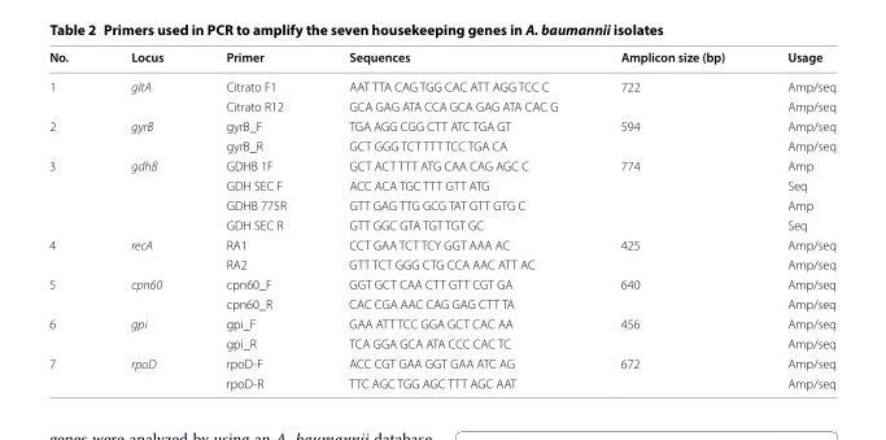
<table><thead><tr><td>No.</td><td>Locus</td><td>Primer</td><td>Sequences</td><td>Amplicon size (bp)</td><td>Usage</td></tr></thead><tbody><tr><td rowspan="2">1</td><td rowspan="2">gltA</td><td>Citrato F1</td><td>AAT TTA CAG TGG CAC ATT AGG TCC C</td><td rowspan="2">722</td><td>Amp/seq</td></tr><tr><td>Citrato R12</td><td>GCA GAG ATA CCA GCA GAG ATA CAC G</td><td>Amp/seq</td></tr><tr><td rowspan="2">2</td><td rowspan="2">gyrB</td><td>gyrB_F</td><td>TGA AGG CGG CTT ATC TGA GT</td><td rowspan="2">594</td><td>Amp/seq</td></tr><tr><td>gyrB_R</td><td>GCT GGG TCT TTT TCC TGA CA</td><td>Amp/seq</td></tr><tr><td rowspan="4">3</td><td rowspan="4">gdhB</td><td>GDHB 1F</td><td>GCT ACT TTT ATG CAA CAG AGC C</td><td rowspan="4">774</td><td>Amp</td></tr><tr><td>GDH SEC F</td><td>ACC ACA TGC TTT GTT ATG</td><td>Seq</td></tr><tr><td>GDHB 775R</td><td>GTT GAG TTG GCG TAT GTT GTG C</td><td>Amp</td></tr><tr><td>GDH SEC R</td><td>GTT GGC GTA TGT TGT GC</td><td>Seq</td></tr><tr><td rowspan="2">4</td><td rowspan="2">recA</td><td>RA1</td><td>CCT GAA TCT TCY GGT AAA AC</td><td rowspan="2">425</td><td>Amp/seq</td></tr><tr><td>RA2</td><td>GTT TCT GGG CTG CCA AAC ATT AC</td><td>Amp/seq</td></tr><tr><td rowspan="2">5</td><td rowspan="2">cpn60</td><td>cpn60_F</td><td>GGT GCT CAA CTT GTT CGT GA</td><td rowspan="2">640</td><td>Amp/seq</td></tr><tr><td>cpn60_R</td><td>CAC CGA AAC CAG GAG CTT TA</td><td>Amp/seq</td></tr><tr><td rowspan="2">6</td><td rowspan="2">gpi</td><td>gpi_F</td><td>GAA ATT TCC GGA GCT CAC AA</td><td rowspan="2">456</td><td>Amp/seq</td></tr><tr><td>gpi_R</td><td>TCA GGA GCA ATA CCC CAC TC</td><td>Amp/seq</td></tr><tr><td rowspan="2">7</td><td rowspan="2">rpoD</td><td>rpoD-F</td><td>ACC CGT GAA GGT GAA ATC AG</td><td rowspan="2">672</td><td>Amp/seq</td></tr><tr><td>rpoD-R</td><td>TTC AGC TGG AGC TTT AGC AAT</td><td>Amp/seq</td></tr></tbody></table>